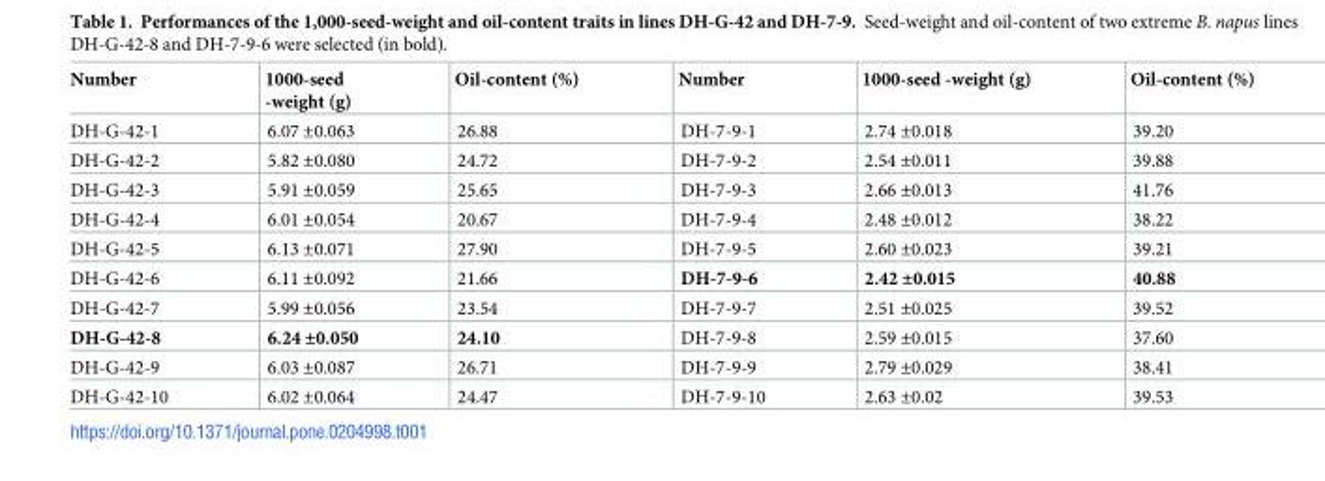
<table><thead><tr><td>Number</td><td>1000-seed -weight (g)</td><td>Oil-content (%)</td><td>Number</td><td>1000-seed -weight (g)</td><td>Oil-content (%)</td></tr></thead><tbody><tr><td>DH-G-42-1</td><td>6.07 ±0.063</td><td>26.88</td><td>DH-7-9-1</td><td>2.74 ±0.018</td><td>39.20</td></tr><tr><td>DH-G-42-2</td><td>5.82 ±0.080</td><td>24.72</td><td>DH-7-9-2</td><td>2.54 ±0.011</td><td>39.88</td></tr><tr><td>DH-G-42-3</td><td>5.91 ±0.059</td><td>25.65</td><td>DH-7-9-3</td><td>2.66 ±0.013</td><td>41.76</td></tr><tr><td>DH-G-42-4</td><td>6.01 ±0.054</td><td>20.67</td><td>DH-7-9-4</td><td>2.48 ±0.012</td><td>38.22</td></tr><tr><td>DH-G-42-5</td><td>6.13 ±0.071</td><td>27.90</td><td>DH-7-9-5</td><td>2.60 ±0.023</td><td>39.21</td></tr><tr><td>DH-G-42-6</td><td>6.11 ±0.092</td><td>21.66</td><td>DH-7-9-6</td><td>2.42 ±0.015</td><td>40.88</td></tr><tr><td>DH-G-42-7</td><td>5.99 ±0.056</td><td>23.54</td><td>DH-7-9-7</td><td>2.51 ±0.025</td><td>39.52</td></tr><tr><td>DH-G-42-8</td><td>6.24 ±0.050</td><td>24.10</td><td>DH-7-9-8</td><td>2.59 ±0.015</td><td>37.60</td></tr><tr><td>DH-G-42-9</td><td>6.03 ±0.087</td><td>26.71</td><td>DH-7-9-9</td><td>2.79 ±0.029</td><td>38.41</td></tr><tr><td>DH-G-42-10</td><td>6.02 ±0.064</td><td>24.47</td><td>DH-7-9-10</td><td>2.63 ±0.02</td><td>39.53</td></tr></tbody></table>